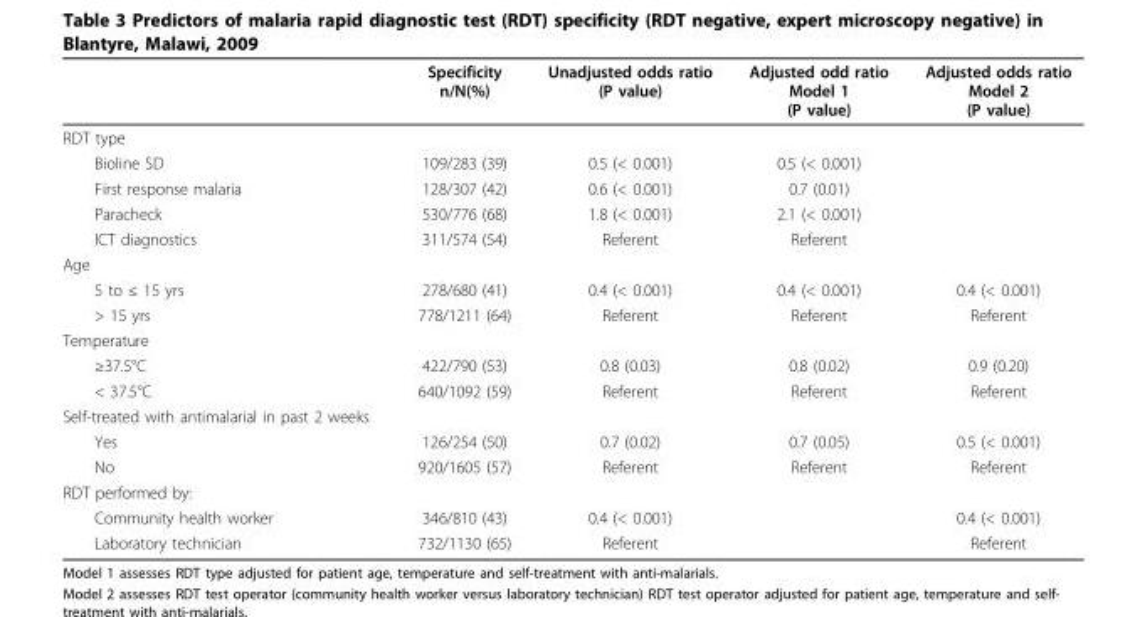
<table><thead><tr><td></td><td>Specificity n/N(%)</td><td>Unadjusted odds ratio (P value)</td><td>Adjusted odd ratio Model 1 (P value)</td><td>Adjusted odds ratio Model 2 (P value)</td></tr></thead><tbody><tr><td colspan="5">RDT type</td></tr><tr><td>Bioline SD</td><td>109/283 (39)</td><td>0.5 (&lt; 0.001)</td><td>0.5 (&lt; 0.001)</td><td></td></tr><tr><td>First response malaria</td><td>128/307 (42)</td><td>0.6 (&lt; 0.001)</td><td>0.7 (0.01)</td><td></td></tr><tr><td>Paracheck</td><td>530/776 (68)</td><td>1.8 (&lt; 0.001)</td><td>2.1 (&lt; 0.001)</td><td></td></tr><tr><td>ICT diagnostics</td><td>311/574 (54)</td><td>Referent</td><td>Referent</td><td></td></tr><tr><td colspan="5">Age</td></tr><tr><td>5 to ≤ 15 yrs</td><td>278/680 (41)</td><td>0.4 (&lt; 0.001)</td><td>0.4 (&lt; 0.001)</td><td>0.4 (&lt; 0.001)</td></tr><tr><td>&gt; 15 yrs</td><td>778/1211 (64)</td><td>Referent</td><td>Referent</td><td>Referent</td></tr><tr><td colspan="5">Temperature</td></tr><tr><td>≥37.5°C</td><td>422/790 (53)</td><td>0.8 (0.03)</td><td>0.8 (0.02)</td><td>0.9 (0.20)</td></tr><tr><td>&lt; 37.5°C</td><td>640/1092 (59)</td><td>Referent</td><td>Referent</td><td>Referent</td></tr><tr><td colspan="5">Self-treated with antimalarial in past 2 weeks</td></tr><tr><td>Yes</td><td>126/254 (50)</td><td>0.7 (0.02)</td><td>0.7 (0.05)</td><td>0.5 (&lt; 0.001)</td></tr><tr><td>No</td><td>920/1605 (57)</td><td>Referent</td><td>Referent</td><td>Referent</td></tr><tr><td colspan="5">RDT performed by:</td></tr><tr><td>Community health worker</td><td>346/810 (43)</td><td>0.4 (&lt; 0.001)</td><td></td><td>0.4 (&lt; 0.001)</td></tr><tr><td>Laboratory technician</td><td>732/1130 (65)</td><td>Referent</td><td></td><td>Referent</td></tr></tbody></table>